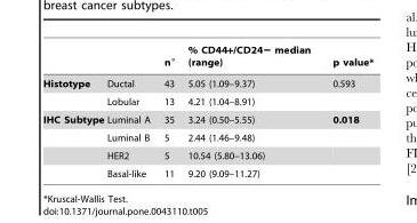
<table><thead><tr><td></td><td></td><td>n°</td><td>% CD44+/CD24− median (range)</td><td>p value*</td></tr></thead><tbody><tr><td rowspan="2">Histotype</td><td>Ductal</td><td>43</td><td>5.05 (1.09–9.37)</td><td>0.593</td></tr><tr><td>Lobular</td><td>13</td><td>4.21 (1.04–8.91)</td><td></td></tr><tr><td rowspan="4">IHC Subtype</td><td>Luminal A</td><td>35</td><td>3.24 (0.50–5.55)</td><td>0.018</td></tr><tr><td>Luminal B</td><td>5</td><td>2.44 (1.46–9.48)</td><td></td></tr><tr><td>HER2</td><td>5</td><td>10.54 (5.80–13.06)</td><td></td></tr><tr><td>Basal-like</td><td>11</td><td>9.20 (9.09–11.27)</td><td></td></tr></tbody></table>